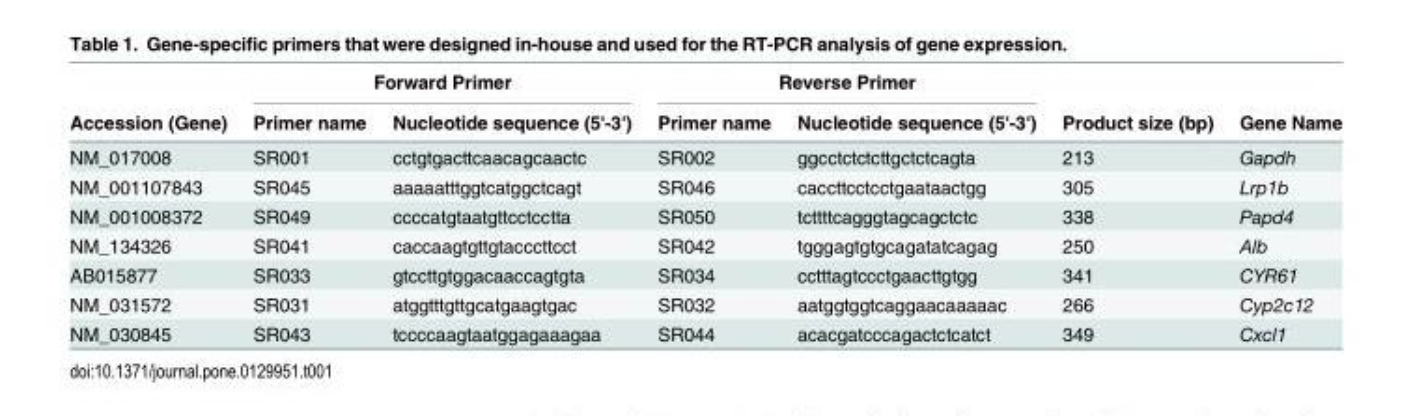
<table><thead><tr><td rowspan="2">Accession (Gene)</td><td colspan="2">Forward Primer</td><td colspan="2">Reverse Primer</td><td rowspan="2">Product size (bp)</td><td rowspan="2">Gene Name</td></tr><tr><td>Primer name</td><td>Nucleotide sequence (5&#x27;-3&#x27;)</td><td>Primer name</td><td>Nucleotide sequence (5&#x27;-3&#x27;)</td></tr></thead><tbody><tr><td>NM_017008</td><td>SR001</td><td>cctgtgacttcaacagcaactc</td><td>SR002</td><td>ggcctctctcttgctctcagta</td><td>213</td><td>Gapdh</td></tr><tr><td>NM_001107843</td><td>SR045</td><td>aaaaatttggtcatggctcagt</td><td>SR046</td><td>caccttcctcctgaataactgg</td><td>305</td><td>Lrp1b</td></tr><tr><td>NM_001008372</td><td>SR049</td><td>ccccatgtaatgttcctcctta</td><td>SR050</td><td>tcttttcagggtagcagctctc</td><td>338</td><td>Papd4</td></tr><tr><td>NM_134326</td><td>SR041</td><td>caccaagtgttgtacccttcct</td><td>SR042</td><td>tgggagtgtgcagatatcagag</td><td>250</td><td>Alb</td></tr><tr><td>AB015877</td><td>SR033</td><td>gtccttgtggacaaccagtgta</td><td>SR034</td><td>cctttagtccctgaacttgtgg</td><td>341</td><td>CYR61</td></tr><tr><td>NM_031572</td><td>SR031</td><td>atggtttgttgcatgaagtgac</td><td>SR032</td><td>aatggtggtcaggaacaaaaac</td><td>266</td><td>Cyp2c12</td></tr><tr><td>NM_030845</td><td>SR043</td><td>tccccaagtaatggagaaagaa</td><td>SR044</td><td>acacgatcccagactctcatct</td><td>349</td><td>Cxcl1</td></tr></tbody></table>